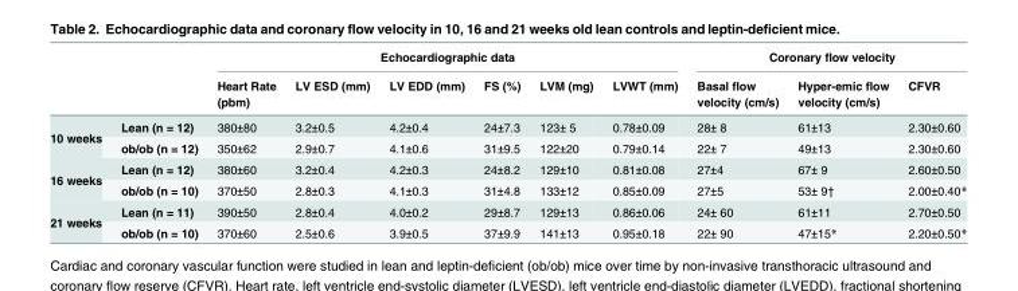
<table><thead><tr><td rowspan="2"></td><td rowspan="2"></td><td colspan="6">Echocardiographic data</td><td colspan="3">Coronary flow velocity</td></tr><tr><td>Heart Rate (pbm)</td><td>LV ESD (mm)</td><td>LV EDD (mm)</td><td>FS (%)</td><td>LVM (mg)</td><td>LVWT (mm)</td><td>Basal flow velocity (cm/s)</td><td>Hyper-emic flow velocity (cm/s)</td><td>CFVR</td></tr></thead><tbody><tr><td rowspan="2">10 weeks</td><td>Lean (n = 12)</td><td>380±80</td><td>3.2±0.5</td><td>4.2±0.4</td><td>24±7.3</td><td>123± 5</td><td>0.78±0.09</td><td>28± 8</td><td>61±13</td><td>2.30±0.60</td></tr><tr><td>ob/ob (n = 12)</td><td>350±62</td><td>2.9±0.7</td><td>4.1±0.6</td><td>31±9.5</td><td>122±20</td><td>0.79±0.14</td><td>22± 7</td><td>49±13</td><td>2.30±0.60</td></tr><tr><td rowspan="2">16 weeks</td><td>Lean (n = 12)</td><td>380±60</td><td>3.2±0.4</td><td>4.2±0.3</td><td>24±8.2</td><td>129±10</td><td>0.81±0.08</td><td>27±4</td><td>67± 9</td><td>2.60±0.50</td></tr><tr><td>ob/ob (n = 10)</td><td>370±50</td><td>2.8±0.3</td><td>4.1±0.3</td><td>31±4.8</td><td>133±12</td><td>0.85±0.09</td><td>27±5</td><td>53± 9†</td><td>2.00±0.40*</td></tr><tr><td rowspan="2">21 weeks</td><td>Lean (n = 11)</td><td>390±50</td><td>2.8±0.4</td><td>4.0±0.2</td><td>29±8.7</td><td>129±13</td><td>0.86±0.06</td><td>24± 60</td><td>61±11</td><td>2.70±0.50</td></tr><tr><td>ob/ob (n = 10)</td><td>370±60</td><td>2.5±0.6</td><td>3.9±0.5</td><td>37±9.9</td><td>141±13</td><td>0.95±0.18</td><td>22± 90</td><td>47±15*</td><td>2.20±0.50*</td></tr></tbody></table>